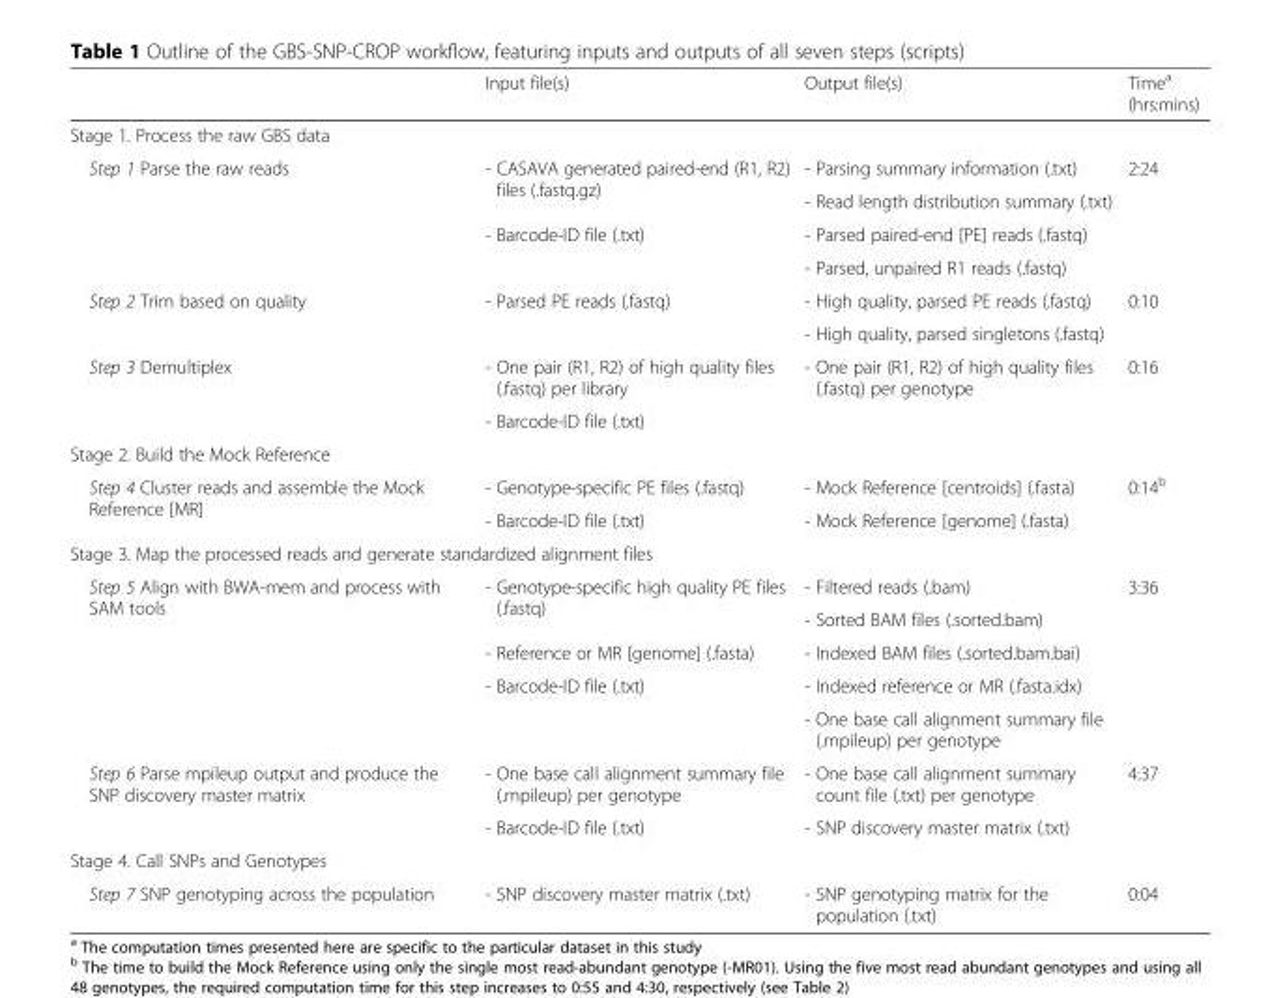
<table><thead><tr><td></td><td>Input file(s)</td><td>Output file(s)</td><td>Time<sup>a</sup> (hrs:mins)</td></tr></thead><tbody><tr><td colspan="4">Stage 1. Process the raw GBS data</td></tr><tr><td rowspan="4">Step 1 Parse the raw reads</td><td rowspan="2">- CASAVA generated paired-end (R1, R2) files (.fastq.gz)</td><td>- Parsing summary information (.txt)</td><td rowspan="4">2:24</td></tr><tr><td>- Read length distribution summary (.txt)</td></tr><tr><td rowspan="2">- Barcode-ID file (.txt)</td><td>- Parsed paired-end [PE] reads (.fastq)</td></tr><tr><td>- Parsed, unpaired R1 reads (.fastq)</td></tr><tr><td rowspan="2">Step 2 Trim based on quality</td><td rowspan="2">- Parsed PE reads (.fastq)</td><td>- High quality, parsed PE reads (.fastq)</td><td rowspan="2">0:10</td></tr><tr><td>- High quality, parsed singletons (.fastq)</td></tr><tr><td rowspan="2">Step 3 Demultiplex</td><td>- One pair (R1, R2) of high quality files (.fastq) per library</td><td rowspan="2">- One pair (R1, R2) of high quality files (.fastq) per genotype</td><td rowspan="2">0:16</td></tr><tr><td>- Barcode-ID file (.txt)</td></tr><tr><td colspan="4">Stage 2. Build the Mock Reference</td></tr><tr><td rowspan="2">Step 4 Cluster reads and assemble the Mock Reference [MR]</td><td>- Genotype-specific PE files (.fastq)</td><td>- Mock Reference [centroids] (.fasta)</td><td rowspan="2">0:14<sup>b</sup></td></tr><tr><td>- Barcode-ID file (.txt)</td><td>- Mock Reference [genome] (.fasta)</td></tr><tr><td colspan="4">Stage 3. Map the processed reads and generate standardized alignment files</td></tr><tr><td rowspan="5">Step 5 Align with BWA-mem and process with SAM tools</td><td rowspan="2">- Genotype-specific high quality PE files (.fastq)</td><td>- Filtered reads (.bam)</td><td rowspan="5">3:36</td></tr><tr><td>- Sorted BAM files (.sorted.bam)</td></tr><tr><td>- Reference or MR [genome] (.fasta)</td><td>- Indexed BAM files (.sorted.bam.bai)</td></tr><tr><td rowspan="2">- Barcode-ID file (.txt)</td><td>- Indexed reference or MR (.fasta.idx)</td></tr><tr><td>- One base call alignment summary file (.mpileup) per genotype</td></tr><tr><td rowspan="2">Step 6 Parse mpileup output and produce the SNP discovery master matrix</td><td>- One base call alignment summary file (.mpileup) per genotype</td><td>- One base call alignment summary count file (.txt) per genotype</td><td rowspan="2">4:37</td></tr><tr><td>- Barcode-ID file (.txt)</td><td>- SNP discovery master matrix (.txt)</td></tr><tr><td colspan="4">Stage 4. Call SNPs and Genotypes</td></tr><tr><td>Step 7 SNP genotyping across the population</td><td>- SNP discovery master matrix (.txt)</td><td>- SNP genotyping matrix for the population (.txt)</td><td>0:04</td></tr></tbody></table>